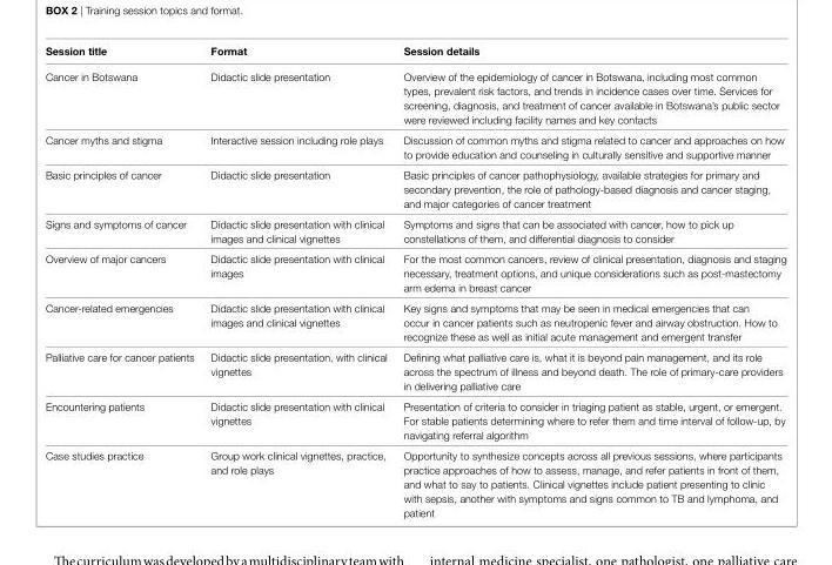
<table><thead><tr><td>session title</td><td>Format</td><td>session details</td></tr></thead><tbody><tr><td>Cancer in Botswana</td><td>Didactic slide presentation</td><td>Overview of the epidemiology of cancer in Botswana, including most common types, prevalent risk factors, and trends in incidence cases over time. Services for screening, diagnosis, and treatment of cancer available in Botswana’s public sector were reviewed including facility names and key contacts</td></tr><tr><td>Cancer myths and stigma</td><td>Interactive session including role plays</td><td>Discussion of common myths and stigma related to cancer and approaches on how to provide education and counseling in culturally sensitive and supportive manner</td></tr><tr><td>Basic principles of cancer</td><td>Didactic slide presentation</td><td>Basic principles of cancer pathophysiology, available strategies for primary and secondary prevention, the role of pathology-based diagnosis and cancer staging, and major categories of cancer treatment</td></tr><tr><td>Signs and symptoms of cancer</td><td>Didactic slide presentation with clinical images and clinical vignettes</td><td>Symptoms and signs that can be associated with cancer, how to pick up constellations of them, and differential diagnosis to consider</td></tr><tr><td>Overview of major cancers</td><td>Didactic slide presentation with clinical images</td><td>For the most common cancers, review of clinical presentation, diagnosis and staging necessary, treatment options, and unique considerations such as post-mastectomy arm edema in breast cancer</td></tr><tr><td>Cancer-related emergencies</td><td>Didactic slide presentation with clinical images and clinical vignettes</td><td>Key signs and symptoms that may be seen in medical emergencies that can occur in cancer patients such as neutropenic fever and airway obstruction. How to recognize these as well as initial acute management and emergent transfer</td></tr><tr><td>Palliative care for cancer patients</td><td>Didactic slide presentation, with clinical vignettes</td><td>Defining what palliative care is, what it is beyond pain management, and its role across the spectrum of illness and beyond death. The role of primary-care providers in delivering palliative care</td></tr><tr><td>Encountering patients</td><td>Didactic slide presentation with clinical vignettes</td><td>Presentation of criteria to consider in triaging patient as stable, urgent, or emergent. For stable patients determining where to refer them and time interval of follow-up, by navigating referral algorithm</td></tr><tr><td>Case studies practice</td><td>Group work clinical vignettes, practice, and role plays</td><td>Opportunity to synthesize concepts across all previous sessions, where participants practice approaches of how to assess, manage, and refer patients in front of them, and what to say to patients. Clinical vignettes include patient presenting to clinic with sepsis, another with symptoms and signs common to TB and lymphoma, and patient</td></tr></tbody></table>